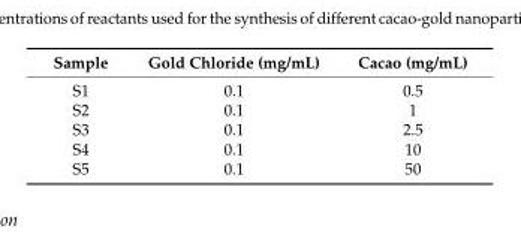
<table><thead><tr><td>Sample</td><td>Gold Chloride (mg/mL)</td><td>Cacao (mg/mL)</td></tr></thead><tbody><tr><td>S1</td><td>0.1</td><td>0.5</td></tr><tr><td>S2</td><td>0.1</td><td>1</td></tr><tr><td>S3</td><td>0.1</td><td>2.5</td></tr><tr><td>S4</td><td>0.1</td><td>10</td></tr><tr><td>S5</td><td>0.1</td><td>50</td></tr></tbody></table>